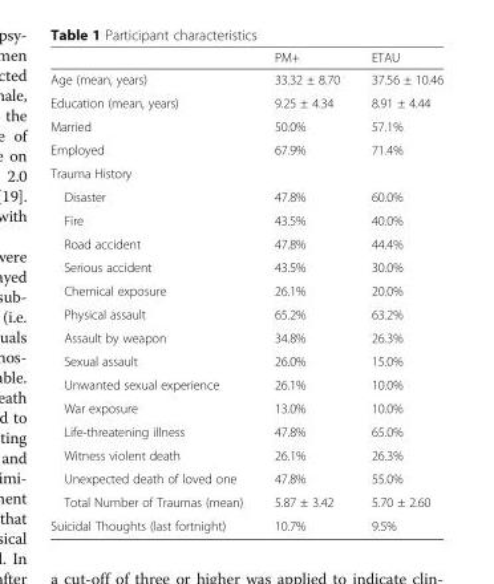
<table><thead><tr><td></td><td>PM+</td><td>ETAU</td></tr></thead><tbody><tr><td>Age (mean, years)</td><td>33.32 ± 8.70</td><td>37.56 ± 10.46</td></tr><tr><td>Education (mean, years)</td><td>9.25 ± 4.34</td><td>8.91 ± 4.44</td></tr><tr><td>Married</td><td>50.0%</td><td>57.1%</td></tr><tr><td>Employed</td><td>67.9%</td><td>71.4%</td></tr><tr><td colspan="3">Trauma History</td></tr><tr><td>Disaster</td><td>47.8%</td><td>60.0%</td></tr><tr><td>Fire</td><td>43.5%</td><td>40.0%</td></tr><tr><td>Road accident</td><td>47.8%</td><td>44.4%</td></tr><tr><td>Serious accident</td><td>43.5%</td><td>30.0%</td></tr><tr><td>Chemical exposure</td><td>26.1%</td><td>20.0%</td></tr><tr><td>Physical assault</td><td>65.2%</td><td>63.2%</td></tr><tr><td>Assault by weapon</td><td>34.8%</td><td>26.3%</td></tr><tr><td>Sexual assault</td><td>26.0%</td><td>15.0%</td></tr><tr><td>Unwanted sexual experience</td><td>26.1%</td><td>10.0%</td></tr><tr><td>War exposure</td><td>13.0%</td><td>10.0%</td></tr><tr><td>Life-threatening illness</td><td>47.8%</td><td>65.0%</td></tr><tr><td>Witness violent death</td><td>26.1%</td><td>26.3%</td></tr><tr><td>Unexpected death of loved one</td><td>47.8%</td><td>55.0%</td></tr><tr><td>Total Number of Traumas (mean)</td><td>5.87 ± 3.42</td><td>5.70 ± 2.60</td></tr><tr><td>Suicidal Thoughts (last fortnight)</td><td>10.7%</td><td>9.5%</td></tr></tbody></table>